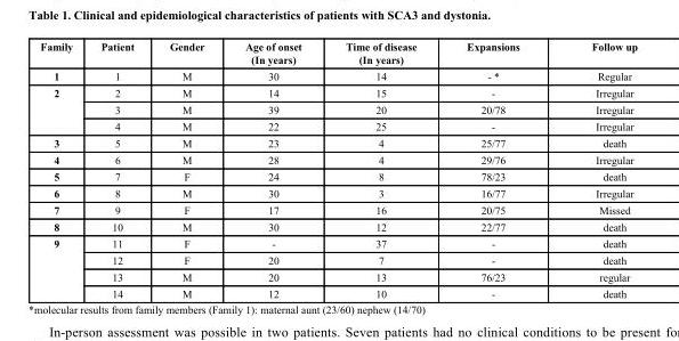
<table><thead><tr><td>Family</td><td>Patient</td><td>Gender</td><td>Age of onset (In years)</td><td>Time of disease (In years)</td><td>Expansions</td><td>Follow up</td></tr></thead><tbody><tr><td>1</td><td>1</td><td>M</td><td>30</td><td>14</td><td>- *</td><td>Regular</td></tr><tr><td rowspan="3">2</td><td>2</td><td>M</td><td>14</td><td>15</td><td>-</td><td>Irregular</td></tr><tr><td>3</td><td>M</td><td>39</td><td>20</td><td>20/78</td><td>Irregular</td></tr><tr><td>4</td><td>M</td><td>22</td><td>25</td><td>-</td><td>Irregular</td></tr><tr><td>3</td><td>5</td><td>M</td><td>23</td><td>4</td><td>25/77</td><td>death</td></tr><tr><td>4</td><td>6</td><td>M</td><td>28</td><td>4</td><td>29/76</td><td>Irregular</td></tr><tr><td>5</td><td>7</td><td>F</td><td>24</td><td>8</td><td>78/23</td><td>death</td></tr><tr><td>6</td><td>8</td><td>M</td><td>30</td><td>3</td><td>16/77</td><td>Irregular</td></tr><tr><td>7</td><td>9</td><td>F</td><td>17</td><td>16</td><td>20/75</td><td>Missed</td></tr><tr><td>8</td><td>10</td><td>M</td><td>30</td><td>12</td><td>22/77</td><td>death</td></tr><tr><td rowspan="4">9</td><td>11</td><td>F</td><td>-</td><td>37</td><td>-</td><td>death</td></tr><tr><td>12</td><td>F</td><td>20</td><td>7</td><td>-</td><td>death</td></tr><tr><td>13</td><td>M</td><td>20</td><td>13</td><td>76/23</td><td>regular</td></tr><tr><td>14</td><td>M</td><td>12</td><td>10</td><td>-</td><td>death</td></tr></tbody></table>